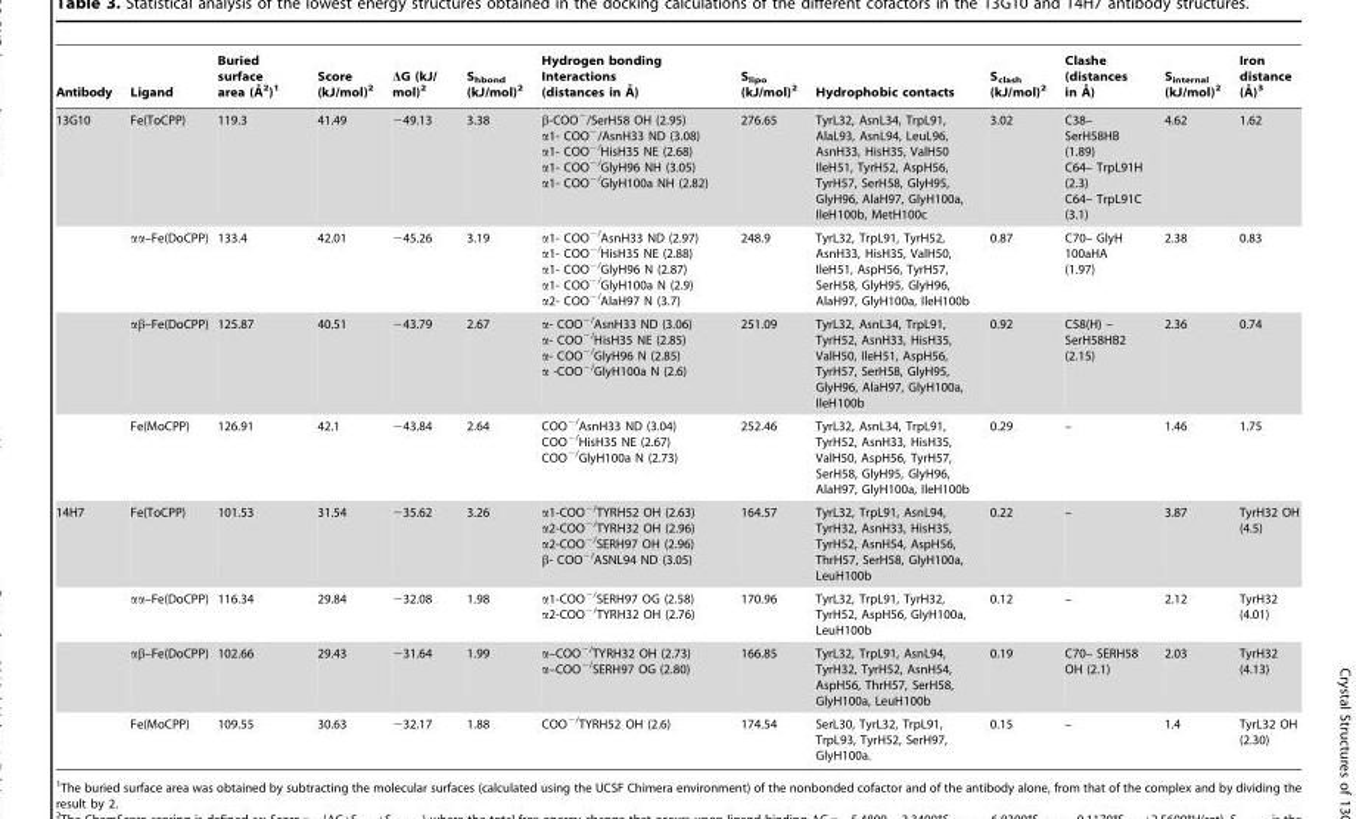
<table><thead><tr><td>Antibody</td><td>Ligand</td><td>Buried surface area (A˚ 2)1</td><td>Score (kJ/mol)<sup>2</sup></td><td>ΔG (kJ/ mol)<sup>2</sup></td><td>S<sub>hbond</sub> (kJ/mol)<sup>2</sup></td><td>Hydrogen bonding Interactions (distances in A˚)</td><td>S<sub>lipo</sub> (kJ/mol)<sup>2</sup></td><td>Hydrophobic contacts</td><td>S<sub>clash</sub> (kJ/mol)<sup>2</sup></td><td>Clashe (distances in A˚)</td><td>S<sub>internal</sub> (kJ/mol)<sup>2</sup></td><td>Iron distance (A˚)3</td></tr></thead><tbody><tr><td rowspan="4">13G10</td><td>Fe(ToCPP)</td><td>119.3</td><td>41.49</td><td>−49.13</td><td>3.38</td><td>β-COO<sup>−</sup>/SerH58 OH (2.95) α1- COO<sup>−</sup>/AsnH33 ND (3.08) α1- COO<sup>−/</sup>HisH35 NE (2.68) α1- COO<sup>−/</sup>GlyH96 NH (3.05) α1- COO<sup>−/</sup>GlyH100a NH (2.82)</td><td>276.65</td><td>TyrL32, AsnL34, TrpL91, AlaL93, AsnL94, LeuL96, AsnH33, HisH35, ValH50 IleH51, TyrH52, AspH56, TyrH57, SerH58, GlyH95, GlyH96, AlaH97, GlyH100a, IleH100b, MetH100c</td><td>3.02</td><td>C38– SerH58HB (1.89) C64– TrpL91H (2.3) C64– TrpL91C (3.1)</td><td>4.62</td><td>1.62</td></tr><tr><td>αα–Fe(DoCPP)</td><td>133.4</td><td>42.01</td><td>−45.26</td><td>3.19</td><td>α1- COO<sup>−/</sup>AsnH33 ND (2.97) α1- COO<sup>−/</sup>HisH35 NE (2.88) α1- COO<sup>−/</sup>GlyH96 N (2.87) α1- COO<sup>−/</sup>GlyH100a N (2.9) α2- COO<sup>−/</sup>AlaH97 N (3.7)</td><td>248.9</td><td>TyrL32, TrpL91, TyrH52, AsnH33, HisH35, ValH50, IleH51, AspH56, TyrH57, SerH58, GlyH95, GlyH96, AlaH97, GlyH100a, IleH100b</td><td>0.87</td><td>C70– GlyH 100aHA (1.97)</td><td>2.38</td><td>0.83</td></tr><tr><td>αβ–Fe(DoCPP)</td><td>125.87</td><td>40.51</td><td>−43.79</td><td>2.67</td><td>α- COO<sup>−/</sup>AsnH33 ND (3.06) α- COO<sup>−/</sup>HisH35 NE (2.85) α- COO<sup>−/</sup>GlyH96 N (2.85) α -COO<sup>−/</sup>GlyH100a N (2.6)</td><td>251.09</td><td>TyrL32, AsnL34, TrpL91, TyrH52, AsnH33, HisH35, ValH50, IleH51, AspH56, TyrH57, SerH58, GlyH95, GlyH96, AlaH97, GlyH100a, IleH100b</td><td>0.92</td><td>C58(H) – SerH58HB2 (2.15)</td><td>2.36</td><td>0.74</td></tr><tr><td>Fe(MoCPP)</td><td>126.91</td><td>42.1</td><td>−43.84</td><td>2.64</td><td>COO<sup>−/</sup>AsnH33 ND (3.04) COO<sup>−/</sup>HisH35 NE (2.67) COO<sup>−/</sup>GlyH100a N (2.73)</td><td>252.46</td><td>TyrL32, AsnL34, TrpL91, TyrH52, AsnH33, HisH35, ValH50, AspH56, TyrH57, SerH58, GlyH95, GlyH96, AlaH97, GlyH100a, IleH100b</td><td>0.29</td><td>–</td><td>1.46</td><td>1.75</td></tr><tr><td rowspan="4">14H7</td><td>Fe(ToCPP)</td><td>101.53</td><td>31.54</td><td>−35.62</td><td>3.26</td><td>α1-COO<sup>−/</sup>TYRH52 OH (2.63) α2-COO<sup>−/</sup>TYRH32 OH (2.96) α2-COO<sup>−/</sup>SERH97 OH (2.96) β- COO<sup>−/</sup>ASNL94 ND (3.05)</td><td>164.57</td><td>TyrL32, TrpL91, AsnL94, TyrH32, AsnH33, HisH35, TyrH52, AsnH54, AspH56, ThrH57, SerH58, GlyH100a, LeuH100b</td><td>0.22</td><td>–</td><td>3.87</td><td>TyrH32 OH (4.5)</td></tr><tr><td>αα–Fe(DoCPP)</td><td>116.34</td><td>29.84</td><td>−32.08</td><td>1.98</td><td>α1-COO<sup>−/</sup>SERH97 OG (2.58) α2-COO<sup>−/</sup>TYRH32 OH (2.76)</td><td>170.96</td><td>TyrL32, TrpL91, TyrH32, TyrH52, AspH56, GlyH100a, LeuH100b</td><td>0.12</td><td>–</td><td>2.12</td><td>TyrH32 (4.01)</td></tr><tr><td>αβ–Fe(DoCPP)</td><td>102.66</td><td>29.43</td><td>−31.64</td><td>1.99</td><td>α–COO<sup>−/</sup>TYRH32 OH (2.73) α–COO<sup>−/</sup>SERH97 OG (2.80)</td><td>166.85</td><td>TyrL32, TrpL91, AsnL94, TyrH32, TyrH52, AsnH54, AspH56, ThrH57, SerH58, GlyH100a, LeuH100b</td><td>0.19</td><td>C70– SERH58 OH (2.1)</td><td>2.03</td><td>TyrH32 (4.13)</td></tr><tr><td>Fe(MoCPP)</td><td>109.55</td><td>30.63</td><td>−32.17</td><td>1.88</td><td>COO<sup>−/</sup>TYRH52 OH (2.6)</td><td>174.54</td><td>SerL30, TyrL32, TrpL91, TrpL93, TyrH52, SerH97, GlyH100a.</td><td>0.15</td><td>–</td><td>1.4</td><td>TyrL32 OH (2.30)</td></tr></tbody></table>